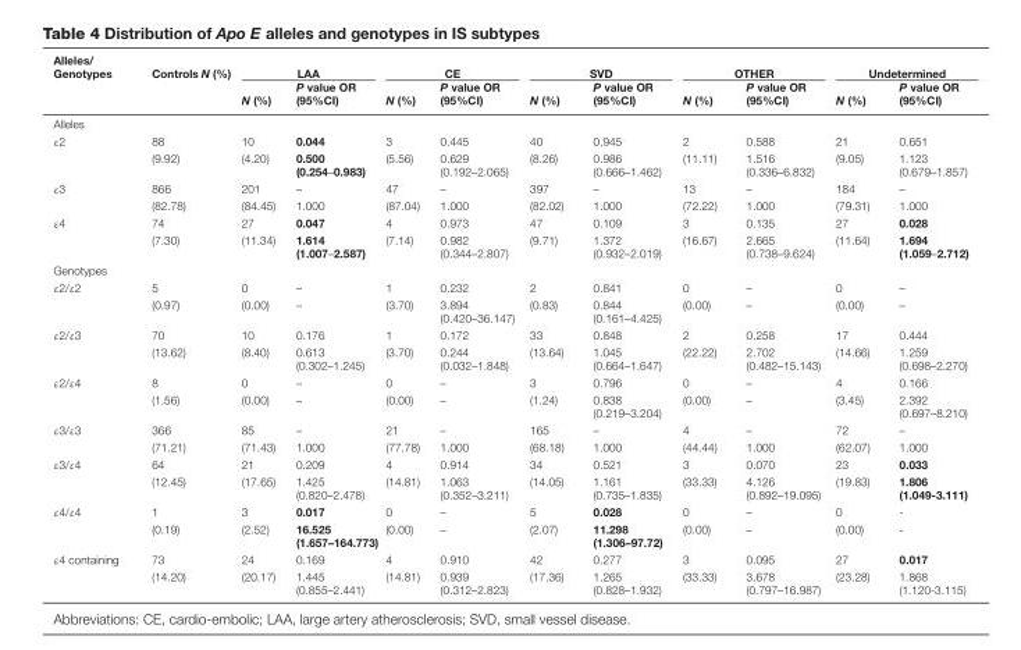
<table><thead><tr><td rowspan="2">Alleles/ Genotypes</td><td rowspan="2">Controls N (%)</td><td colspan="2">LAA</td><td colspan="2">CE</td><td colspan="2">SVD</td><td colspan="2">OTHER</td><td colspan="2">Undetermined</td></tr><tr><td>N (%)</td><td>P value OR (95%CI)</td><td>N (%)</td><td>P value OR (95%CI)</td><td>N (%)</td><td>P value OR (95%CI)</td><td>N (%)</td><td>P value OR (95%CI)</td><td>N (%)</td><td>P value OR (95%CI)</td></tr></thead><tbody><tr><td colspan="12">Alleles</td></tr><tr><td rowspan="2">ε2</td><td>88</td><td>10</td><td>0.044</td><td>3</td><td>0.445</td><td>40</td><td>0.945</td><td>2</td><td>0.588</td><td>21</td><td>0.651</td></tr><tr><td>(9.92)</td><td>(4.20)</td><td>0.500 (0.254–0.983)</td><td>(5.56)</td><td>0.629 (0.192–2.065)</td><td>(8.26)</td><td>0.986 (0.666–1.462)</td><td>(11.11)</td><td>1.516 (0.336–6.832)</td><td>(9.05)</td><td>1.123 (0.679–1.857)</td></tr><tr><td rowspan="2">ε3</td><td>866</td><td>201</td><td>–</td><td>47</td><td>–</td><td>397</td><td>–</td><td>13</td><td>–</td><td>184</td><td>–</td></tr><tr><td>(82.78)</td><td>(84.45)</td><td>1.000</td><td>(87.04)</td><td>1.000</td><td>(82.02)</td><td>1.000</td><td>(72.22)</td><td>1.000</td><td>(79.31)</td><td>1.000</td></tr><tr><td rowspan="2">ε4</td><td>74</td><td>27</td><td>0.047</td><td>4</td><td>0.973</td><td>47</td><td>0.109</td><td>3</td><td>0.135</td><td>27</td><td>0.028</td></tr><tr><td>(7.30)</td><td>(11.34)</td><td>1.614 (1.007–2.587)</td><td>(7.14)</td><td>0.982 (0.344–2.807)</td><td>(9.71)</td><td>1.372 (0.932–2.019)</td><td>(16.67)</td><td>2.665 (0.738–9.624)</td><td>(11.64)</td><td>1.694 (1.059–2.712)</td></tr><tr><td colspan="12">Genotypes</td></tr><tr><td rowspan="2">ε2/ε2</td><td>5</td><td>0</td><td>–</td><td>1</td><td>0.232</td><td>2</td><td>0.841</td><td>0</td><td>–</td><td>0</td><td>–</td></tr><tr><td>(0.97)</td><td>(0.00)</td><td>–</td><td>(3.70)</td><td>3.894 (0.420–36.147)</td><td>(0.83)</td><td>0.844 (0.161–4.425)</td><td>(0.00)</td><td>–</td><td>(0.00)</td><td>–</td></tr><tr><td rowspan="2">ε2/ε3</td><td>70</td><td>10</td><td>0.176</td><td>1</td><td>0.172</td><td>33</td><td>0.848</td><td>2</td><td>0.258</td><td>17</td><td>0.444</td></tr><tr><td>(13.62)</td><td>(8.40)</td><td>0.613 (0.302–1.245)</td><td>(3.70)</td><td>0.244 (0.032–1.848)</td><td>(13.64)</td><td>1.045 (0.664–1.647)</td><td>(22.22)</td><td>2.702 (0.482–15.143)</td><td>(14.66)</td><td>1.259 (0.698–2.270)</td></tr><tr><td rowspan="2">ε2/ε4</td><td>8</td><td>0</td><td>–</td><td>0</td><td>–</td><td>3</td><td>0.796</td><td>0</td><td>–</td><td>4</td><td>0.166</td></tr><tr><td>(1.56)</td><td>(0.00)</td><td>–</td><td>(0.00)</td><td>–</td><td>(1.24)</td><td>0.838 (0.219–3.204)</td><td>(0.00)</td><td>–</td><td>(3.45)</td><td>2.392 (0.697–8.210)</td></tr><tr><td rowspan="2">ε3/ε3</td><td>366</td><td>85</td><td>–</td><td>21</td><td>–</td><td>165</td><td>–</td><td>4</td><td>–</td><td>72</td><td>–</td></tr><tr><td>(71.21)</td><td>(71.43)</td><td>1.000</td><td>(77.78)</td><td>1.000</td><td>(68.18)</td><td>1.000</td><td>(44.44)</td><td>1.000</td><td>(62.07)</td><td>1.000</td></tr><tr><td rowspan="2">ε3/ε4</td><td>64</td><td>21</td><td>0.209</td><td>4</td><td>0.914</td><td>34</td><td>0.521</td><td>3</td><td>0.070</td><td>23</td><td>0.033</td></tr><tr><td>(12.45)</td><td>(17.65)</td><td>1.425 (0.820–2.478)</td><td>(14.81)</td><td>1.063 (0.352–3.211)</td><td>(14.05)</td><td>1.161 (0.735–1.835)</td><td>(33.33)</td><td>4.126 (0.892–19.095)</td><td>(19.83)</td><td>1.806 (1.049-3.111)</td></tr><tr><td rowspan="2">ε4/ε4</td><td>1</td><td>3</td><td>0.017</td><td>0</td><td>–</td><td>5</td><td>0.028</td><td>0</td><td>–</td><td>0</td><td>-</td></tr><tr><td>(0.19)</td><td>(2.52)</td><td>16.525 (1.657–164.773)</td><td>(0.00)</td><td>–</td><td>(2.07)</td><td>11.298 (1.306–97.72)</td><td>(0.00)</td><td>–</td><td>(0.00)</td><td>-</td></tr><tr><td rowspan="2">ε4 containing</td><td>73</td><td>24</td><td>0.169</td><td>4</td><td>0.910</td><td>42</td><td>0.277</td><td>3</td><td>0.095</td><td>27</td><td>0.017</td></tr><tr><td>(14.20)</td><td>(20.17)</td><td>1.445 (0.855–2.441)</td><td>(14.81)</td><td>0.939 (0.312–2.823)</td><td>(17.36)</td><td>1.265 (0.828–1.932)</td><td>(33.33)</td><td>3.678 (0.797–16.987)</td><td>(23.28)</td><td>1.868 (1.120-3.115)</td></tr></tbody></table>